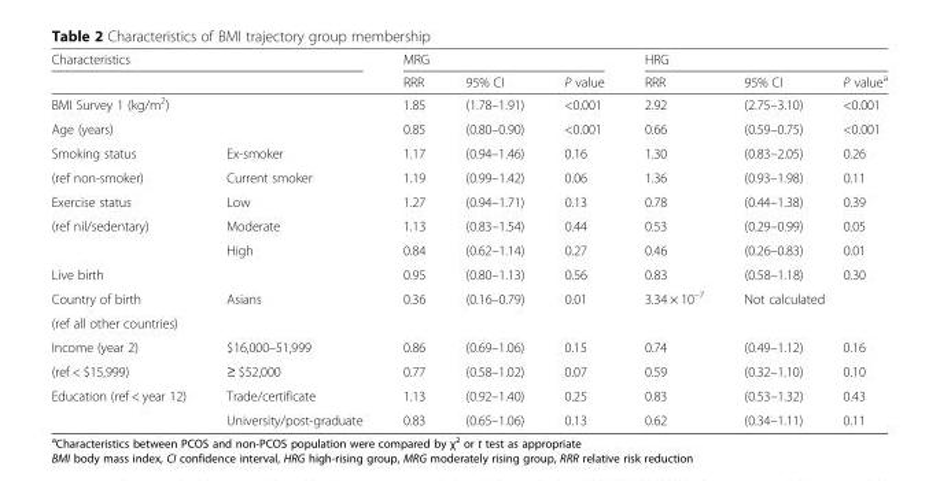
<table><thead><tr><td colspan="2">Characteristics</td><td colspan="3">MRG</td><td colspan="3">HRG</td></tr><tr><td></td><td></td><td>RRR</td><td>95% CI</td><td>P value</td><td>RRR</td><td>95% CI</td><td>P value<sup>a</sup></td></tr></thead><tbody><tr><td>BMI Survey 1 (kg/m<sup>2</sup>)</td><td></td><td>1.85</td><td>(1.78–1.91)</td><td>&lt;0.001</td><td>2.92</td><td>(2.75–3.10)</td><td>&lt;0.001</td></tr><tr><td>Age (years)</td><td></td><td>0.85</td><td>(0.80–0.90)</td><td>&lt;0.001</td><td>0.66</td><td>(0.59–0.75)</td><td>&lt;0.001</td></tr><tr><td>Smoking status</td><td>Ex-smoker</td><td>1.17</td><td>(0.94–1.46)</td><td>0.16</td><td>1.30</td><td>(0.83–2.05)</td><td>0.26</td></tr><tr><td>(ref non-smoker)</td><td>Current smoker</td><td>1.19</td><td>(0.99–1.42)</td><td>0.06</td><td>1.36</td><td>(0.93–1.98)</td><td>0.11</td></tr><tr><td>Exercise status</td><td>Low</td><td>1.27</td><td>(0.94–1.71)</td><td>0.13</td><td>0.78</td><td>(0.44–1.38)</td><td>0.39</td></tr><tr><td rowspan="2">(ref nil/sedentary)</td><td>Moderate</td><td>1.13</td><td>(0.83–1.54)</td><td>0.44</td><td>0.53</td><td>(0.29–0.99)</td><td>0.05</td></tr><tr><td>High</td><td>0.84</td><td>(0.62–1.14)</td><td>0.27</td><td>0.46</td><td>(0.26–0.83)</td><td>0.01</td></tr><tr><td>Live birth</td><td></td><td>0.95</td><td>(0.80–1.13)</td><td>0.56</td><td>0.83</td><td>(0.58–1.18)</td><td>0.30</td></tr><tr><td>Country of birth</td><td>Asians</td><td>0.36</td><td>(0.16–0.79)</td><td>0.01</td><td>3.34 × 10<sup>–7</sup></td><td colspan="2">Not calculated</td></tr><tr><td colspan="8">(ref all other countries)</td></tr><tr><td>Income (year 2)</td><td>$16,000–51,999</td><td>0.86</td><td>(0.69–1.06)</td><td>0.15</td><td>0.74</td><td>(0.49–1.12)</td><td>0.16</td></tr><tr><td>(ref &lt; $15,999)</td><td>≥ $52,000</td><td>0.77</td><td>(0.58–1.02)</td><td>0.07</td><td>0.59</td><td>(0.32–1.10)</td><td>0.10</td></tr><tr><td rowspan="2">Education (ref &lt; year 12)</td><td>Trade/certificate</td><td>1.13</td><td>(0.92–1.40)</td><td>0.25</td><td>0.83</td><td>(0.53–1.32)</td><td>0.43</td></tr><tr><td>University/post-graduate</td><td>0.83</td><td>(0.65–1.06)</td><td>0.13</td><td>0.62</td><td>(0.34–1.11)</td><td>0.11</td></tr></tbody></table>